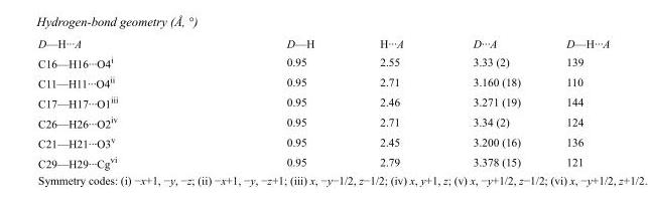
<table><tbody><tr><td>D—H···A</td><td>D—H</td><td>H···A</td><td>D···A</td><td>D—H···A</td></tr><tr><td>C16—H16···O4<sup>i</sup></td><td>0.95</td><td>2.55</td><td>3.33 (2)</td><td>139</td></tr><tr><td>C11—H11···O4<sup>ii</sup></td><td>0.95</td><td>2.71</td><td>3.160 (18)</td><td>110</td></tr><tr><td>C17—H17···O1<sup>iii</sup></td><td>0.95</td><td>2.46</td><td>3.271 (19)</td><td>144</td></tr><tr><td>C26—H26···O2<sup>iv</sup></td><td>0.95</td><td>2.71</td><td>3.34 (2)</td><td>124</td></tr><tr><td>C21—H21···O3<sup>v</sup></td><td>0.95</td><td>2.45</td><td>3.200 (16)</td><td>136</td></tr><tr><td>C29—H29···Cg<sup>vi</sup></td><td>0.95</td><td>2.79</td><td>3.378 (15)</td><td>121</td></tr></tbody></table>